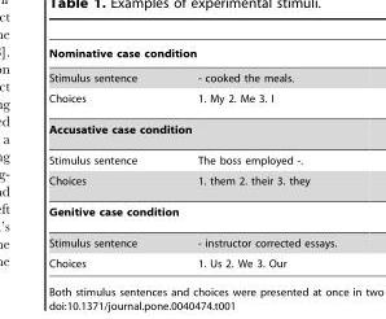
<table><thead><tr><td>Nominative case condition</td><td></td></tr></thead><tbody><tr><td>Stimulus sentence</td><td>- cooked the meals.</td></tr><tr><td>Choices</td><td>1. My 2. Me 3. I</td></tr><tr><td colspan="2">Accusative case condition</td></tr><tr><td>Stimulus sentence</td><td>The boss employed -.</td></tr><tr><td>Choices</td><td>1. them 2. their 3. they</td></tr><tr><td colspan="2">Genitive case condition</td></tr><tr><td>Stimulus sentence</td><td>- instructor corrected essays.</td></tr><tr><td>Choices</td><td>1. Us 2. We 3. Our</td></tr></tbody></table>